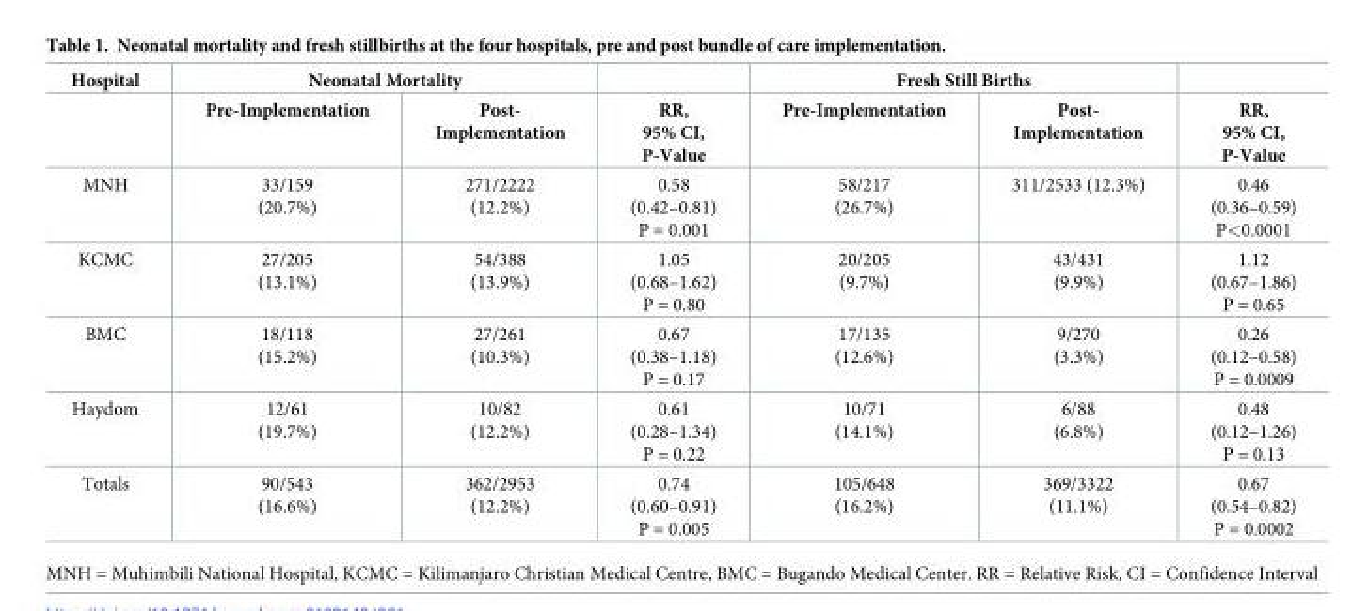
<table><thead><tr><td rowspan="2">Hospital</td><td colspan="2">Neonatal Mortality</td><td rowspan="2">RR, 95% CI, P-Value</td><td colspan="2">Fresh Still Births</td><td rowspan="2">RR, 95% CI, P-Value</td></tr><tr><td>Pre-Implementation</td><td>Post- Implementation</td><td>Pre-Implementation</td><td>Post- Implementation</td></tr></thead><tbody><tr><td>MNH</td><td>33/159 (20.7%)</td><td>271/2222 (12.2%)</td><td>0.58 (0.42–0.81) P = 0.001</td><td>58/217 (26.7%)</td><td>311/2533 (12.3%)</td><td>0.46 (0.36–0.59) P&lt;0.0001</td></tr><tr><td>KCMC</td><td>27/205 (13.1%)</td><td>54/388 (13.9%)</td><td>1.05 (0.68–1.62) P = 0.80</td><td>20/205 (9.7%)</td><td>43/431 (9.9%)</td><td>1.12 (0.67–1.86) P = 0.65</td></tr><tr><td>BMC</td><td>18/118 (15.2%)</td><td>27/261 (10.3%)</td><td>0.67 (0.38–1.18) P = 0.17</td><td>17/135 (12.6%)</td><td>9/270 (3.3%)</td><td>0.26 (0.12–0.58) P = 0.0009</td></tr><tr><td>Haydom</td><td>12/61 (19.7%)</td><td>10/82 (12.2%)</td><td>0.61 (0.28–1.34) P = 0.22</td><td>10/71 (14.1%)</td><td>6/88 (6.8%)</td><td>0.48 (0.12–1.26) P = 0.13</td></tr><tr><td>Totals</td><td>90/543 (16.6%)</td><td>362/2953 (12.2%)</td><td>0.74 (0.60–0.91) P = 0.005</td><td>105/648 (16.2%)</td><td>369/3322 (11.1%)</td><td>0.67 (0.54–0.82) P = 0.0002</td></tr></tbody></table>